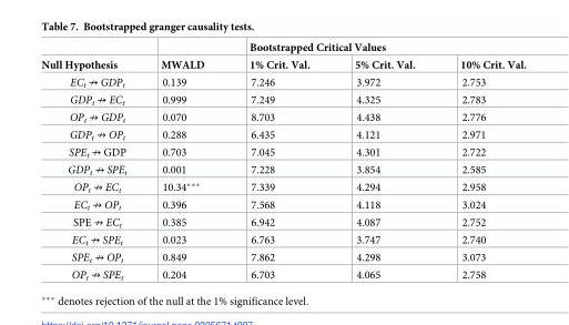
<table><thead><tr><td rowspan="2">Null Hypothesis</td><td rowspan="2">MWALD</td><td colspan="3">Bootstrapped Critical Values</td></tr><tr><td>1% Crit. Val.</td><td>5% Crit. Val.</td><td>10% Crit. Val.</td></tr></thead><tbody><tr><td>EC<sub>t</sub> ↛ GDP<sub>t</sub></td><td>0.139</td><td>7.246</td><td>3.972</td><td>2.753</td></tr><tr><td>GDP<sub>t</sub> ↛ EC<sub>t</sub></td><td>0.999</td><td>7.249</td><td>4.325</td><td>2.783</td></tr><tr><td>OP<sub>t</sub> ↛ GDP<sub>t</sub></td><td>0.070</td><td>8.703</td><td>4.438</td><td>2.776</td></tr><tr><td>GDP<sub>t</sub> ↛ OP<sub>t</sub></td><td>0.288</td><td>6.435</td><td>4.121</td><td>2.971</td></tr><tr><td>SPE<sub>t</sub> ↛ GDP</td><td>0.703</td><td>7.045</td><td>4.301</td><td>2.722</td></tr><tr><td>GDP<sub>t</sub> ↛ SPE<sub>t</sub></td><td>0.001</td><td>7.228</td><td>3.854</td><td>2.585</td></tr><tr><td>OP<sub>t</sub> ↛ EC<sub>t</sub></td><td>10.34***</td><td>7.339</td><td>4.294</td><td>2.958</td></tr><tr><td>EC<sub>t</sub> ↛ OP<sub>t</sub></td><td>0.396</td><td>7.568</td><td>4.118</td><td>3.024</td></tr><tr><td>SPE ↛ EC<sub>t</sub></td><td>0.385</td><td>6.942</td><td>4.087</td><td>2.752</td></tr><tr><td>EC<sub>t</sub> ↛ SPE<sub>t</sub></td><td>0.023</td><td>6.763</td><td>3.747</td><td>2.740</td></tr><tr><td>SPE<sub>t</sub> ↛ OP<sub>t</sub></td><td>0.849</td><td>7.862</td><td>4.298</td><td>3.073</td></tr><tr><td>OP<sub>t</sub> ↛ SPE<sub>t</sub></td><td>0.204</td><td>6.703</td><td>4.065</td><td>2.758</td></tr></tbody></table>